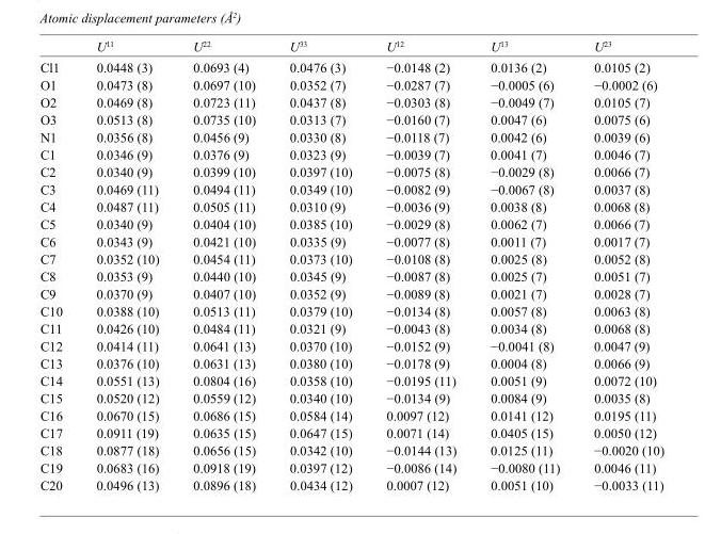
<table><thead><tr><td></td><td>U<sup>11</sup></td><td>U<sup>22</sup></td><td>U<sup>33</sup></td><td>U<sup>12</sup></td><td>U<sup>13</sup></td><td>U<sup>23</sup></td></tr></thead><tbody><tr><td>Cl1</td><td>0.0448 (3)</td><td>0.0693 (4)</td><td>0.0476 (3)</td><td>−0.0148 (2)</td><td>0.0136 (2)</td><td>0.0105 (2)</td></tr><tr><td>O1</td><td>0.0473 (8)</td><td>0.0697 (10)</td><td>0.0352 (7)</td><td>−0.0287 (7)</td><td>−0.0005 (6)</td><td>−0.0002 (6)</td></tr><tr><td>O2</td><td>0.0469 (8)</td><td>0.0723 (11)</td><td>0.0437 (8)</td><td>−0.0303 (8)</td><td>−0.0049 (7)</td><td>0.0105 (7)</td></tr><tr><td>O3</td><td>0.0513 (8)</td><td>0.0735 (10)</td><td>0.0313 (7)</td><td>−0.0160 (7)</td><td>0.0047 (6)</td><td>0.0075 (6)</td></tr><tr><td>N1</td><td>0.0356 (8)</td><td>0.0456 (9)</td><td>0.0330 (8)</td><td>−0.0118 (7)</td><td>0.0042 (6)</td><td>0.0039 (6)</td></tr><tr><td>C1</td><td>0.0346 (9)</td><td>0.0376 (9)</td><td>0.0323 (9)</td><td>−0.0039 (7)</td><td>0.0041 (7)</td><td>0.0046 (7)</td></tr><tr><td>C2</td><td>0.0340 (9)</td><td>0.0399 (10)</td><td>0.0397 (10)</td><td>−0.0075 (8)</td><td>−0.0029 (8)</td><td>0.0066 (7)</td></tr><tr><td>C3</td><td>0.0469 (11)</td><td>0.0494 (11)</td><td>0.0349 (10)</td><td>−0.0082 (9)</td><td>−0.0067 (8)</td><td>0.0037 (8)</td></tr><tr><td>C4</td><td>0.0487 (11)</td><td>0.0505 (11)</td><td>0.0310 (9)</td><td>−0.0036 (9)</td><td>0.0038 (8)</td><td>0.0068 (8)</td></tr><tr><td>C5</td><td>0.0340 (9)</td><td>0.0404 (10)</td><td>0.0385 (10)</td><td>−0.0029 (8)</td><td>0.0062 (7)</td><td>0.0066 (7)</td></tr><tr><td>C6</td><td>0.0343 (9)</td><td>0.0421 (10)</td><td>0.0335 (9)</td><td>−0.0077 (8)</td><td>0.0011 (7)</td><td>0.0017 (7)</td></tr><tr><td>C7</td><td>0.0352 (10)</td><td>0.0454 (11)</td><td>0.0373 (10)</td><td>−0.0108 (8)</td><td>0.0025 (8)</td><td>0.0052 (8)</td></tr><tr><td>C8</td><td>0.0353 (9)</td><td>0.0440 (10)</td><td>0.0345 (9)</td><td>−0.0087 (8)</td><td>0.0025 (7)</td><td>0.0051 (7)</td></tr><tr><td>C9</td><td>0.0370 (9)</td><td>0.0407 (10)</td><td>0.0352 (9)</td><td>−0.0089 (8)</td><td>0.0021 (7)</td><td>0.0028 (7)</td></tr><tr><td>C10</td><td>0.0388 (10)</td><td>0.0513 (11)</td><td>0.0379 (10)</td><td>−0.0134 (8)</td><td>0.0057 (8)</td><td>0.0063 (8)</td></tr><tr><td>C11</td><td>0.0426 (10)</td><td>0.0484 (11)</td><td>0.0321 (9)</td><td>−0.0043 (8)</td><td>0.0034 (8)</td><td>0.0068 (8)</td></tr><tr><td>C12</td><td>0.0414 (11)</td><td>0.0641 (13)</td><td>0.0370 (10)</td><td>−0.0152 (9)</td><td>−0.0041 (8)</td><td>0.0047 (9)</td></tr><tr><td>C13</td><td>0.0376 (10)</td><td>0.0631 (13)</td><td>0.0380 (10)</td><td>−0.0178 (9)</td><td>0.0004 (8)</td><td>0.0066 (9)</td></tr><tr><td>C14</td><td>0.0551 (13)</td><td>0.0804 (16)</td><td>0.0358 (10)</td><td>−0.0195 (11)</td><td>0.0051 (9)</td><td>0.0072 (10)</td></tr><tr><td>C15</td><td>0.0520 (12)</td><td>0.0559 (12)</td><td>0.0340 (10)</td><td>−0.0134 (9)</td><td>0.0084 (9)</td><td>0.0035 (8)</td></tr><tr><td>C16</td><td>0.0670 (15)</td><td>0.0686 (15)</td><td>0.0584 (14)</td><td>0.0097 (12)</td><td>0.0141 (12)</td><td>0.0195 (11)</td></tr><tr><td>C17</td><td>0.0911 (19)</td><td>0.0635 (15)</td><td>0.0647 (15)</td><td>0.0071 (14)</td><td>0.0405 (15)</td><td>0.0050 (12)</td></tr><tr><td>C18</td><td>0.0877 (18)</td><td>0.0656 (15)</td><td>0.0342 (10)</td><td>−0.0144 (13)</td><td>0.0125 (11)</td><td>−0.0020 (10)</td></tr><tr><td>C19</td><td>0.0683 (16)</td><td>0.0918 (19)</td><td>0.0397 (12)</td><td>−0.0086 (14)</td><td>−0.0080 (11)</td><td>0.0046 (11)</td></tr><tr><td>C20</td><td>0.0496 (13)</td><td>0.0896 (18)</td><td>0.0434 (12)</td><td>0.0007 (12)</td><td>0.0051 (10)</td><td>−0.0033 (11)</td></tr></tbody></table>